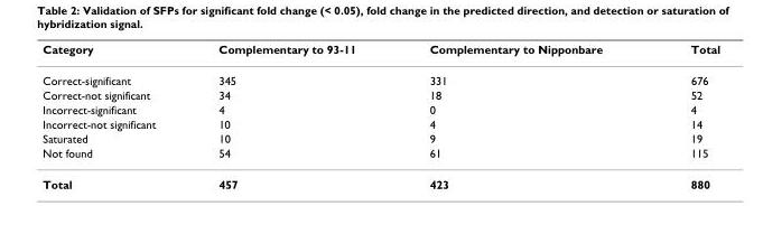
<table><thead><tr><td>Category</td><td>Complementary to 93-11</td><td>Complementary to Nipponbare</td><td>Total</td></tr></thead><tbody><tr><td>Correct-significant</td><td>345</td><td>331</td><td>676</td></tr><tr><td>Correct-not significant</td><td>34</td><td>18</td><td>52</td></tr><tr><td>Incorrect-significant</td><td>4</td><td>0</td><td>4</td></tr><tr><td>Incorrect-not significant</td><td>10</td><td>4</td><td>14</td></tr><tr><td>Saturated</td><td>10</td><td>9</td><td>19</td></tr><tr><td>Not found</td><td>54</td><td>61</td><td>115</td></tr><tr><td>Total</td><td>457</td><td>423</td><td>880</td></tr></tbody></table>